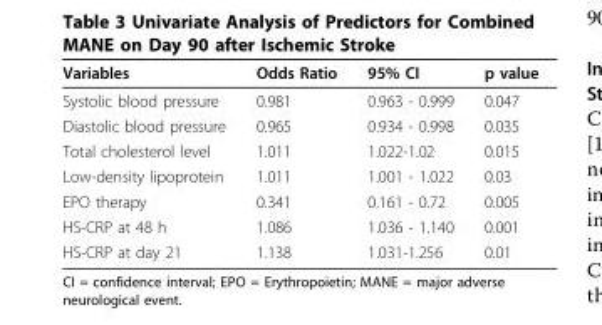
<table><thead><tr><td>Variables</td><td>Odds Ratio</td><td>95% CI</td><td>p value</td></tr></thead><tbody><tr><td>Systolic blood pressure</td><td>0.981</td><td>0.963 - 0.999</td><td>0.047</td></tr><tr><td>Diastolic blood pressure</td><td>0.965</td><td>0.934 - 0.998</td><td>0.035</td></tr><tr><td>Total cholesterol level</td><td>1.011</td><td>1.022-1.02</td><td>0.015</td></tr><tr><td>Low-density lipoprotein</td><td>1.011</td><td>1.001 - 1.022</td><td>0.03</td></tr><tr><td>EPO therapy</td><td>0.341</td><td>0.161 - 0.72</td><td>0.005</td></tr><tr><td>HS-CRP at 48 h</td><td>1.086</td><td>1.036 - 1.140</td><td>0.001</td></tr><tr><td>HS-CRP at day 21</td><td>1.138</td><td>1.031-1.256</td><td>0.01</td></tr></tbody></table>